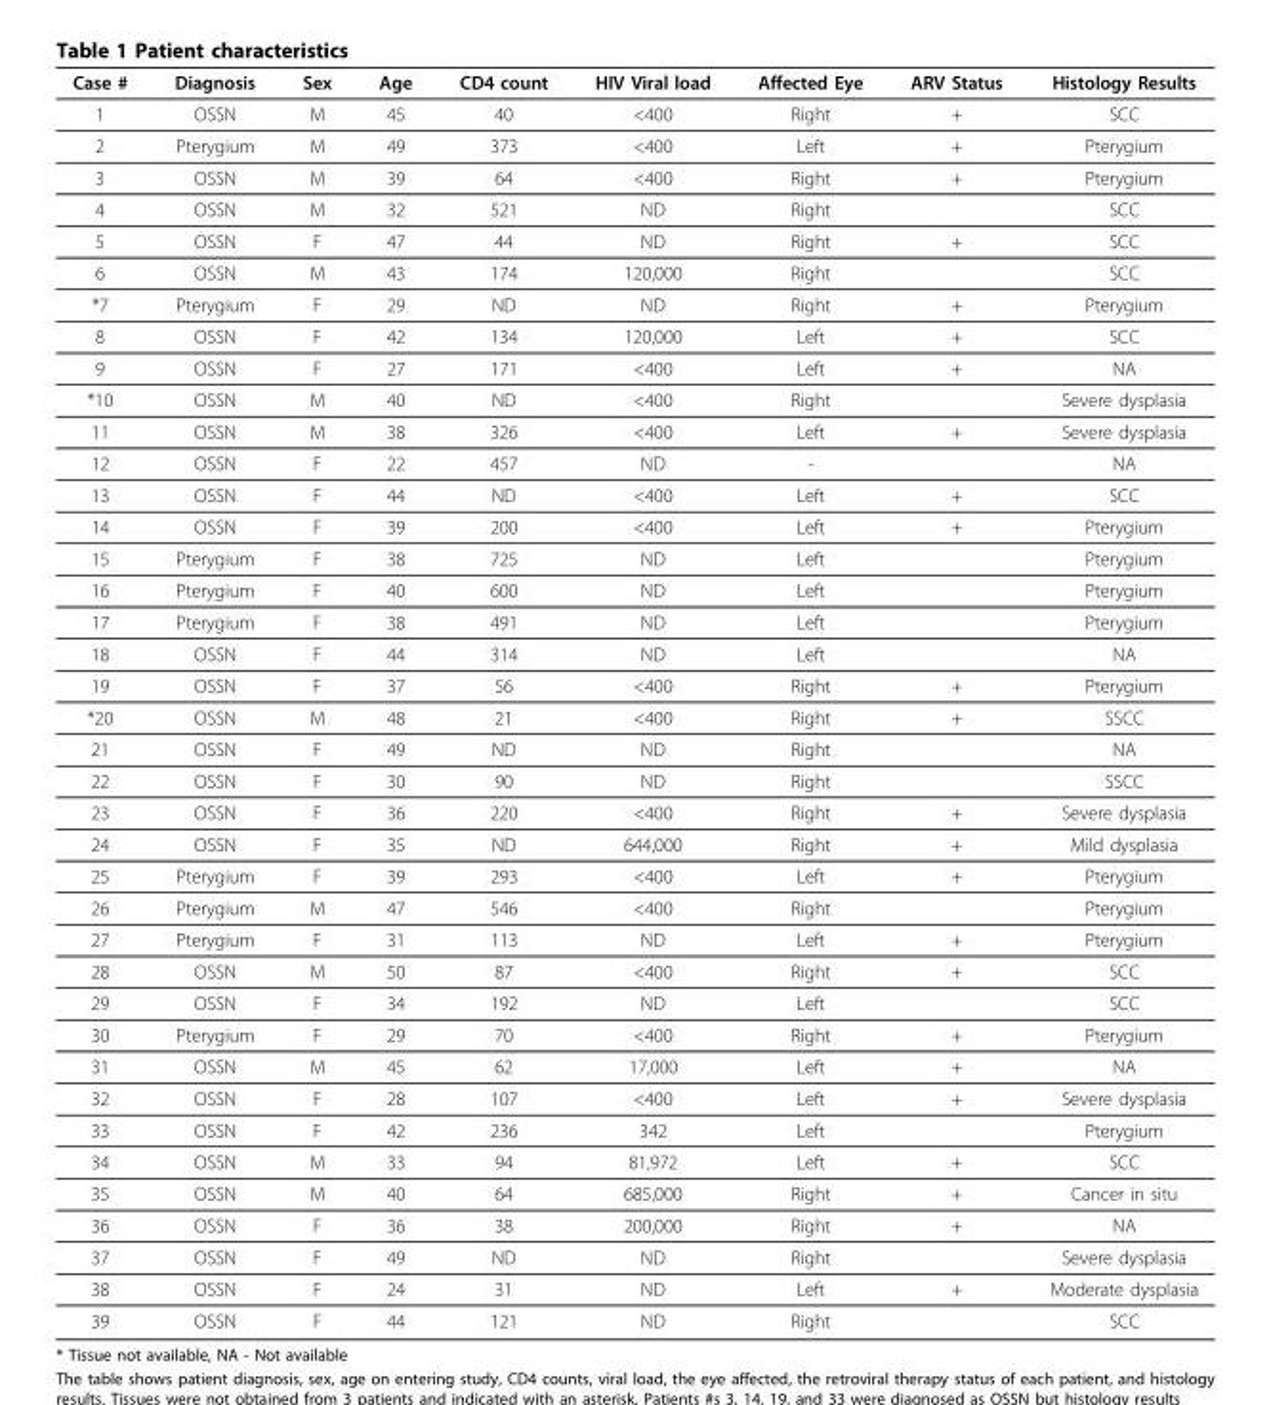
<table><thead><tr><td>Case #</td><td>Diagnosis</td><td>Sex</td><td>Age</td><td>CD4 count</td><td>HIV Viral load</td><td>Affected Eye</td><td>ARV Status</td><td>Histology Results</td></tr></thead><tbody><tr><td>1</td><td>OSSN</td><td>M</td><td>45</td><td>40</td><td>&lt;400</td><td>Right</td><td>+</td><td>SCC</td></tr><tr><td>2</td><td>Pterygium</td><td>M</td><td>49</td><td>373</td><td>&lt;400</td><td>Left</td><td>+</td><td>Pterygium</td></tr><tr><td>3</td><td>OSSN</td><td>M</td><td>39</td><td>64</td><td>&lt;400</td><td>Right</td><td>+</td><td>Pterygium</td></tr><tr><td>4</td><td>OSSN</td><td>M</td><td>32</td><td>521</td><td>ND</td><td>Right</td><td></td><td>SCC</td></tr><tr><td>5</td><td>OSSN</td><td>F</td><td>47</td><td>44</td><td>ND</td><td>Right</td><td>+</td><td>SCC</td></tr><tr><td>6</td><td>OSSN</td><td>M</td><td>43</td><td>174</td><td>120,000</td><td>Right</td><td></td><td>SCC</td></tr><tr><td>*7</td><td>Pterygium</td><td>F</td><td>29</td><td>ND</td><td>ND</td><td>Right</td><td>+</td><td>Pterygium</td></tr><tr><td>8</td><td>OSSN</td><td>F</td><td>42</td><td>134</td><td>120,000</td><td>Left</td><td>+</td><td>SCC</td></tr><tr><td>9</td><td>OSSN</td><td>F</td><td>27</td><td>171</td><td>&lt;400</td><td>Left</td><td>+</td><td>NA</td></tr><tr><td>*10</td><td>OSSN</td><td>M</td><td>40</td><td>ND</td><td>&lt;400</td><td>Right</td><td></td><td>Severe dysplasia</td></tr><tr><td>11</td><td>OSSN</td><td>M</td><td>38</td><td>326</td><td>&lt;400</td><td>Left</td><td>+</td><td>Severe dysplasia</td></tr><tr><td>12</td><td>OSSN</td><td>F</td><td>22</td><td>457</td><td>ND</td><td>-</td><td></td><td>NA</td></tr><tr><td>13</td><td>OSSN</td><td>F</td><td>44</td><td>ND</td><td>&lt;400</td><td>Left</td><td>+</td><td>SCC</td></tr><tr><td>14</td><td>OSSN</td><td>F</td><td>39</td><td>200</td><td>&lt;400</td><td>Left</td><td>+</td><td>Pterygium</td></tr><tr><td>15</td><td>Pterygium</td><td>F</td><td>38</td><td>725</td><td>ND</td><td>Left</td><td></td><td>Pterygium</td></tr><tr><td>16</td><td>Pterygium</td><td>F</td><td>40</td><td>600</td><td>ND</td><td>Left</td><td></td><td>Pterygium</td></tr><tr><td>17</td><td>Pterygium</td><td>F</td><td>38</td><td>491</td><td>ND</td><td>Left</td><td></td><td>Pterygium</td></tr><tr><td>18</td><td>OSSN</td><td>F</td><td>44</td><td>314</td><td>ND</td><td>Left</td><td></td><td>NA</td></tr><tr><td>19</td><td>OSSN</td><td>F</td><td>37</td><td>56</td><td>&lt;400</td><td>Right</td><td>+</td><td>Pterygium</td></tr><tr><td>*20</td><td>OSSN</td><td>M</td><td>48</td><td>21</td><td>&lt;400</td><td>Right</td><td>+</td><td>SSCC</td></tr><tr><td>21</td><td>OSSN</td><td>F</td><td>49</td><td>ND</td><td>ND</td><td>Right</td><td></td><td>NA</td></tr><tr><td>22</td><td>OSSN</td><td>F</td><td>30</td><td>90</td><td>ND</td><td>Right</td><td></td><td>SSCC</td></tr><tr><td>23</td><td>OSSN</td><td>F</td><td>36</td><td>220</td><td>&lt;400</td><td>Right</td><td>+</td><td>Severe dysplasia</td></tr><tr><td>24</td><td>OSSN</td><td>F</td><td>35</td><td>ND</td><td>644,000</td><td>Right</td><td>+</td><td>Mild dysplasia</td></tr><tr><td>25</td><td>Pterygium</td><td>F</td><td>39</td><td>293</td><td>&lt;400</td><td>Left</td><td>+</td><td>Pterygium</td></tr><tr><td>26</td><td>Pterygium</td><td>M</td><td>47</td><td>546</td><td>&lt;400</td><td>Right</td><td></td><td>Pterygium</td></tr><tr><td>27</td><td>Pterygium</td><td>F</td><td>31</td><td>113</td><td>ND</td><td>Left</td><td>+</td><td>Pterygium</td></tr><tr><td>28</td><td>OSSN</td><td>M</td><td>50</td><td>87</td><td>&lt;400</td><td>Right</td><td>+</td><td>SCC</td></tr><tr><td>29</td><td>OSSN</td><td>F</td><td>34</td><td>192</td><td>ND</td><td>Left</td><td></td><td>SCC</td></tr><tr><td>30</td><td>Pterygium</td><td>F</td><td>29</td><td>70</td><td>&lt;400</td><td>Right</td><td>+</td><td>Pterygium</td></tr><tr><td>31</td><td>OSSN</td><td>M</td><td>45</td><td>62</td><td>17,000</td><td>Left</td><td>+</td><td>NA</td></tr><tr><td>32</td><td>OSSN</td><td>F</td><td>28</td><td>107</td><td>&lt;400</td><td>Left</td><td>+</td><td>Severe dysplasia</td></tr><tr><td>33</td><td>OSSN</td><td>F</td><td>42</td><td>236</td><td>342</td><td>Left</td><td></td><td>Pterygium</td></tr><tr><td>34</td><td>OSSN</td><td>M</td><td>33</td><td>94</td><td>81,972</td><td>Left</td><td>+</td><td>SCC</td></tr><tr><td>35</td><td>OSSN</td><td>M</td><td>40</td><td>64</td><td>685,000</td><td>Right</td><td>+</td><td>Cancer in situ</td></tr><tr><td>36</td><td>OSSN</td><td>F</td><td>36</td><td>38</td><td>200,000</td><td>Right</td><td>+</td><td>NA</td></tr><tr><td>37</td><td>OSSN</td><td>F</td><td>49</td><td>ND</td><td>ND</td><td>Right</td><td></td><td>Severe dysplasia</td></tr><tr><td>38</td><td>OSSN</td><td>F</td><td>24</td><td>31</td><td>ND</td><td>Left</td><td>+</td><td>Moderate dysplasia</td></tr><tr><td>39</td><td>OSSN</td><td>F</td><td>44</td><td>121</td><td>ND</td><td>Right</td><td></td><td>SCC</td></tr></tbody></table>